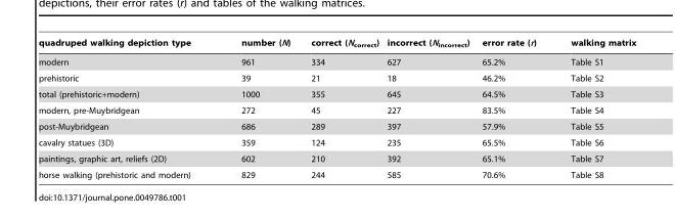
<table><thead><tr><td>quadruped walking depiction type</td><td>number (N)</td><td>correct (N<sub>correct</sub>)</td><td>incorrect (N<sub>incorrect</sub>)</td><td>error rate (r)</td><td>walking matrix</td></tr></thead><tbody><tr><td>modern</td><td>961</td><td>334</td><td>627</td><td>65.2%</td><td>Table S1</td></tr><tr><td>prehistoric</td><td>39</td><td>21</td><td>18</td><td>46.2%</td><td>Table S2</td></tr><tr><td>total (prehistoric+modern)</td><td>1000</td><td>355</td><td>645</td><td>64.5%</td><td>Table S3</td></tr><tr><td>modern, pre-Muybridgean</td><td>272</td><td>45</td><td>227</td><td>83.5%</td><td>Table S4</td></tr><tr><td>post-Muybridgean</td><td>686</td><td>289</td><td>397</td><td>57.9%</td><td>Table S5</td></tr><tr><td>cavalry statues (3D)</td><td>359</td><td>124</td><td>235</td><td>65.5%</td><td>Table S6</td></tr><tr><td>paintings, graphic art, reliefs (2D)</td><td>602</td><td>210</td><td>392</td><td>65.1%</td><td>Table S7</td></tr><tr><td>horse walking (prehistoric and modern)</td><td>829</td><td>244</td><td>585</td><td>70.6%</td><td>Table S8</td></tr></tbody></table>